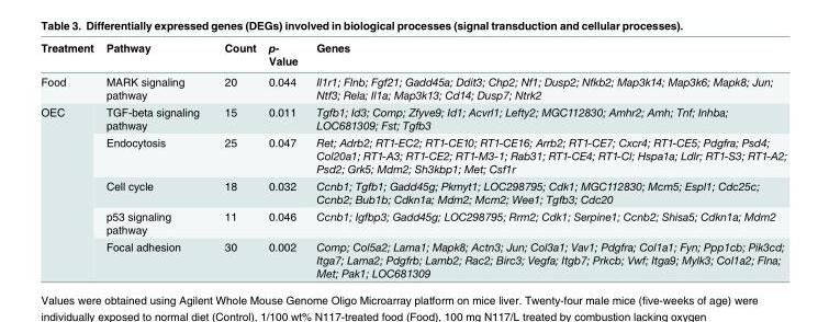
<table><thead><tr><td>Treatment</td><td>Pathway</td><td>Count</td><td>p- Value</td><td>Genes</td></tr></thead><tbody><tr><td>Food</td><td>MARK signaling pathway</td><td>20</td><td>0.044</td><td>Il1r1; Flnb; Fgf21; Gadd45a; Ddit3; Chp2; Nf1; Dusp2; Nfkb2; Map3k14; Map3k6; Mapk8; Jun; Ntf3; Rela; Il1a; Map3k13; Cd14; Dusp7; Ntrk2</td></tr><tr><td rowspan="5">OEC</td><td>TGF-beta signaling pathway</td><td>15</td><td>0.011</td><td>Tgfb1; Id3; Comp; Zfyve9; Id1; Acvrl1; Lefty2; MGC112830; Amhr2; Amh; Tnf; Inhba; LOC681309; Fst; Tgfb3</td></tr><tr><td>Endocytosis</td><td>25</td><td>0.047</td><td>Ret; Adrb2; RT1-EC2; RT1-CE10; RT1-CE16; Arrb2; RT1-CE7; Cxcr4; RT1-CE5; Pdgfra; Psd4; Col20a1; RT1-A3; RT1-CE2; RT1-M3-1; Rab31; RT1-CE4; RT1-Cl; Hspa1a; Ldlr; RT1-S3; RT1-A2; Psd2; Grk5; Mdm2; Sh3kbp1; Met; Csf1r</td></tr><tr><td>Cell cycle</td><td>18</td><td>0.032</td><td>Ccnb1; Tgfb1; Gadd45g; Pkmyt1; LOC298795; Cdk1; MGC112830; Mcm5; Espl1; Cdc25c; Ccnb2; Bub1b; Cdkn1a; Mdm2; Mcm2; Wee1; Tgfb3; Cdc20</td></tr><tr><td>p53 signaling pathway</td><td>11</td><td>0.046</td><td>Ccnb1; Igfbp3; Gadd45g; LOC298795; Rrm2; Cdk1; Serpine1; Ccnb2; Shisa5; Cdkn1a; Mdm2</td></tr><tr><td>Focal adhesion</td><td>30</td><td>0.002</td><td>Comp; Col5a2; Lama1; Mapk8; Actn3; Jun; Col3a1; Vav1; Pdgfra; Col1a1; Fyn; Ppp1cb; Pik3cd; Itga7; Lama2; Pdgfrb; Lamb2; Rac2; Birc3; Vegfa; Itgb7; Prkcb; Vwf; Itga9; Mylk3; Col1a2; Flna; Met; Pak1; LOC681309</td></tr></tbody></table>